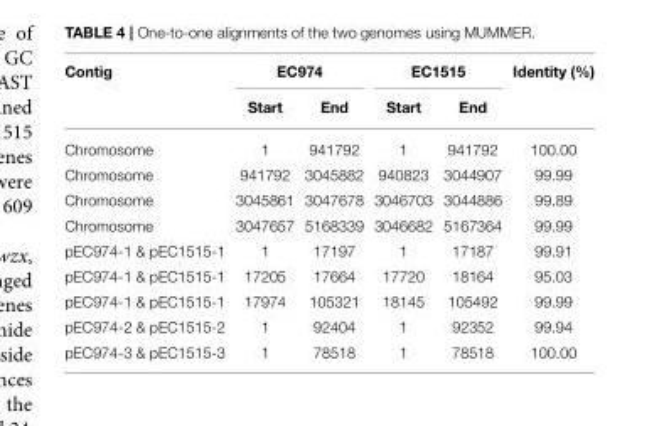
<table><thead><tr><td rowspan="2">Contig</td><td colspan="2">EC974</td><td colspan="2">EC1515</td><td rowspan="2">Identity (%)</td></tr><tr><td>Start</td><td>End</td><td>Start</td><td>End</td></tr></thead><tbody><tr><td>Chromosome</td><td>1</td><td>941792</td><td>1</td><td>941792</td><td>100.00</td></tr><tr><td>Chromosome</td><td>941792</td><td>3045882</td><td>940823</td><td>3044907</td><td>99.99</td></tr><tr><td>Chromosome</td><td>3045861</td><td>3047678</td><td>3046703</td><td>3044886</td><td>99.89</td></tr><tr><td>Chromosome</td><td>3047657</td><td>5168339</td><td>3046682</td><td>5167364</td><td>99.99</td></tr><tr><td>pEC974-1 &amp; pEC1515-1</td><td>1</td><td>17197</td><td>1</td><td>17187</td><td>99.91</td></tr><tr><td>pEC974-1 &amp; pEC1515-1</td><td>17205</td><td>17664</td><td>17720</td><td>18164</td><td>95.03</td></tr><tr><td>pEC974-1 &amp; pEC1515-1</td><td>17974</td><td>105321</td><td>18145</td><td>105492</td><td>99.99</td></tr><tr><td>pEC974-2 &amp; pEC1515-2</td><td>1</td><td>92404</td><td>1</td><td>92352</td><td>99.94</td></tr><tr><td>pEC974-3 &amp; pEC1515-3</td><td>1</td><td>78518</td><td>1</td><td>78518</td><td>100.00</td></tr></tbody></table>